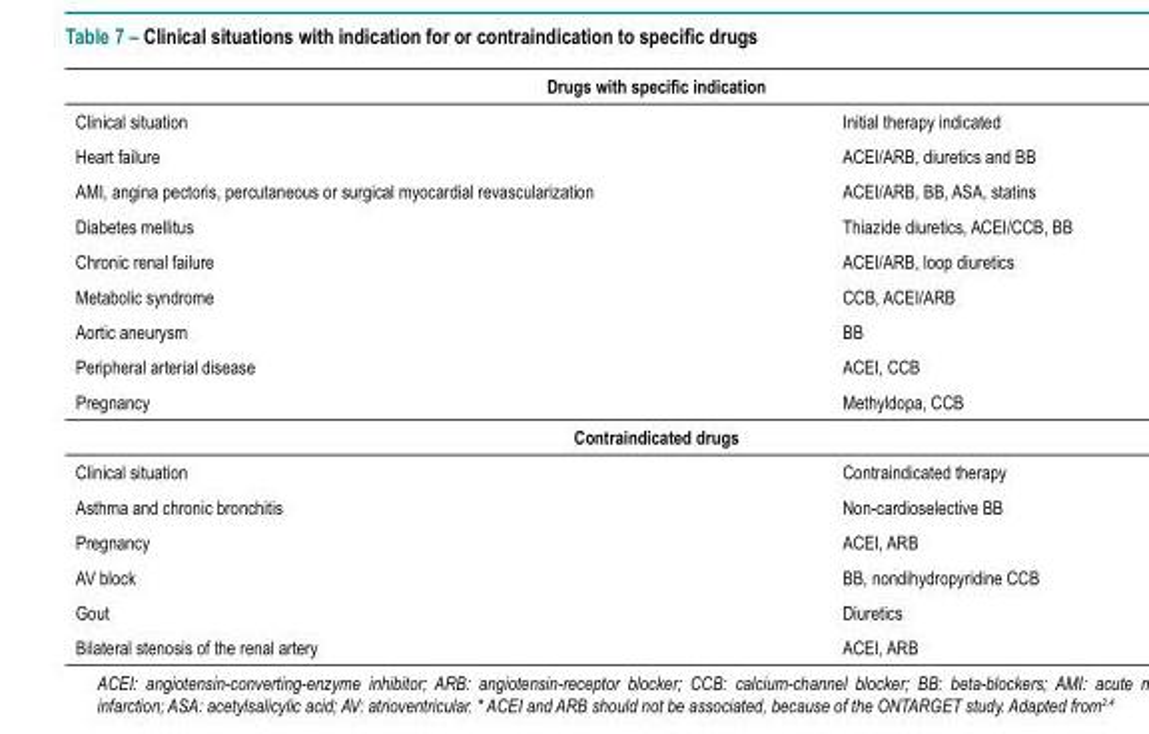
<table><thead><tr><td colspan="2">Drugs with specific indication</td></tr><tr><td>Clinical situation</td><td>Initial therapy indicated</td></tr></thead><tbody><tr><td>Heart failure</td><td>ACEI/ARB, diuretics and BB</td></tr><tr><td>AMI, angina pectoris, percutaneous or surgical myocardial revascularization</td><td>ACEI/ARB, BB, ASA, statins</td></tr><tr><td>Diabetes mellitus</td><td>Thiazide diuretics, ACEI/CCB, BB</td></tr><tr><td>Chronic renal failure</td><td>ACEI/ARB, loop diuretics</td></tr><tr><td>Metabolic syndrome</td><td>CCB, ACEI/ARB</td></tr><tr><td>Aortic aneurysm</td><td>BB</td></tr><tr><td>Peripheral arterial disease</td><td>ACEI, CCB</td></tr><tr><td>Pregnancy</td><td>Methyldopa, CCB</td></tr><tr><td colspan="2">Contraindicated drugs</td></tr><tr><td>Clinical situation</td><td>Contraindicated therapy</td></tr><tr><td>Asthma and chronic bronchitis</td><td>Non-cardioselective BB</td></tr><tr><td>Pregnancy</td><td>ACEI, ARB</td></tr><tr><td>AV block</td><td>BB, nondihydropyridine CCB</td></tr><tr><td>Gout</td><td>Diuretics</td></tr><tr><td>Bilateral stenosis of the renal artery</td><td>ACEI, ARB</td></tr></tbody></table>